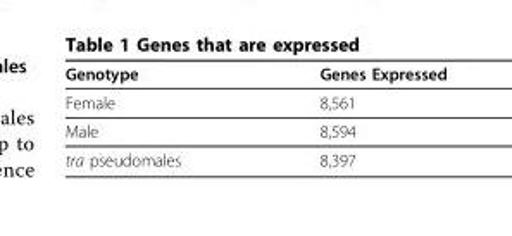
<table><thead><tr><td>Genotype</td><td>Genes Expressed</td></tr></thead><tbody><tr><td>Female</td><td>8,561</td></tr><tr><td>Male</td><td>8,594</td></tr><tr><td>tra pseudomales</td><td>8,397</td></tr></tbody></table>